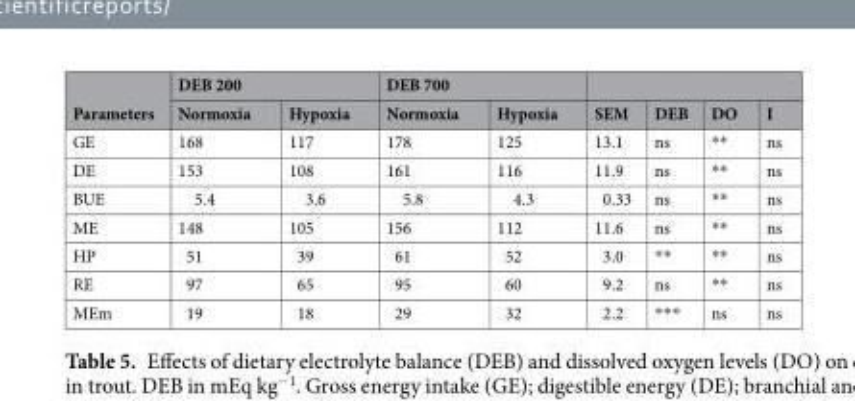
<table><thead><tr><td rowspan="2">Parameters</td><td colspan="2">DEB 200</td><td colspan="2">DEB 700</td><td rowspan="2">SEM</td><td rowspan="2">DEB</td><td rowspan="2">DO</td><td rowspan="2">I</td></tr><tr><td>Normoxia</td><td>Hypoxia</td><td>Normoxia</td><td>Hypoxia</td></tr></thead><tbody><tr><td>GE</td><td>168</td><td>117</td><td>178</td><td>125</td><td>13.1</td><td>ns</td><td>**</td><td>ns</td></tr><tr><td>DE</td><td>153</td><td>108</td><td>161</td><td>116</td><td>11.9</td><td>ns</td><td>**</td><td>ns</td></tr><tr><td>BUE</td><td>5.4</td><td>3.6</td><td>5.8</td><td>4.3</td><td>0.33</td><td>ns</td><td>**</td><td>ns</td></tr><tr><td>ME</td><td>148</td><td>105</td><td>156</td><td>112</td><td>11.6</td><td>ns</td><td>**</td><td>ns</td></tr><tr><td>HP</td><td>51</td><td>39</td><td>61</td><td>52</td><td>3.0</td><td>**</td><td>**</td><td>ns</td></tr><tr><td>RE</td><td>97</td><td>65</td><td>95</td><td>60</td><td>9.2</td><td>ns</td><td>**</td><td>ns</td></tr><tr><td>MEm</td><td>19</td><td>18</td><td>29</td><td>32</td><td>2.2</td><td>***</td><td>ns</td><td>ns</td></tr></tbody></table>